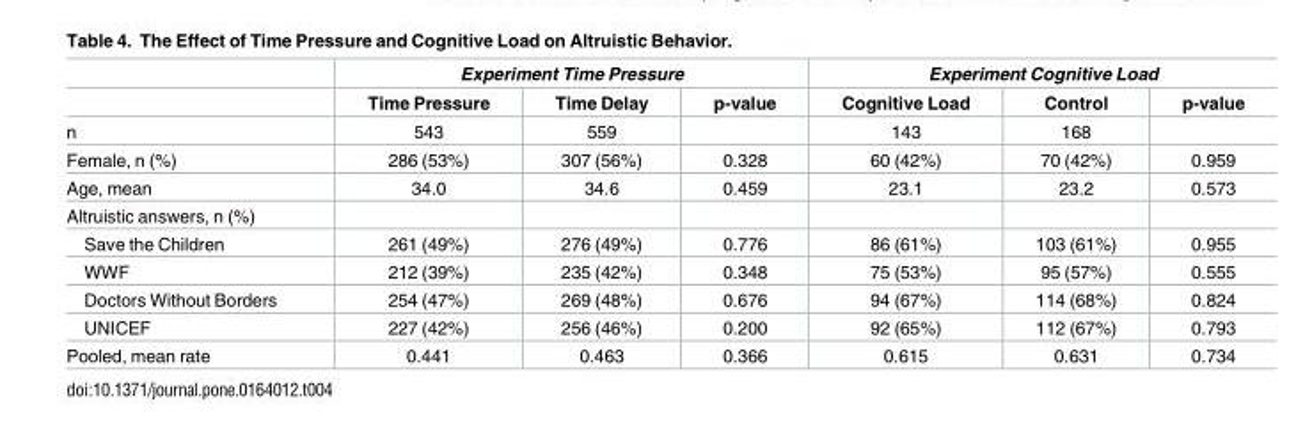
<table><thead><tr><td rowspan="2"></td><td colspan="3">Experiment Time Pressure</td><td colspan="3">Experiment Cognitive Load</td></tr><tr><td>Time Pressure</td><td>Time Delay</td><td>p-value</td><td>Cognitive Load</td><td>Control</td><td>p-value</td></tr></thead><tbody><tr><td>n</td><td>543</td><td>559</td><td></td><td>143</td><td>168</td><td></td></tr><tr><td>Female, n (%)</td><td>286 (53%)</td><td>307 (56%)</td><td>0.328</td><td>60 (42%)</td><td>70 (42%)</td><td>0.959</td></tr><tr><td>Age, mean</td><td>34.0</td><td>34.6</td><td>0.459</td><td>23.1</td><td>23.2</td><td>0.573</td></tr><tr><td colspan="7">Altruistic answers, n (%)</td></tr><tr><td>Save the Children</td><td>261 (49%)</td><td>276 (49%)</td><td>0.776</td><td>86 (61%)</td><td>103 (61%)</td><td>0.955</td></tr><tr><td>WWF</td><td>212 (39%)</td><td>235 (42%)</td><td>0.348</td><td>75 (53%)</td><td>95 (57%)</td><td>0.555</td></tr><tr><td>Doctors Without Borders</td><td>254 (47%)</td><td>269 (48%)</td><td>0.676</td><td>94 (67%)</td><td>114 (68%)</td><td>0.824</td></tr><tr><td>UNICEF</td><td>227 (42%)</td><td>256 (46%)</td><td>0.200</td><td>92 (65%)</td><td>112 (67%)</td><td>0.793</td></tr><tr><td>Pooled, mean rate</td><td>0.441</td><td>0.463</td><td>0.366</td><td>0.615</td><td>0.631</td><td>0.734</td></tr></tbody></table>